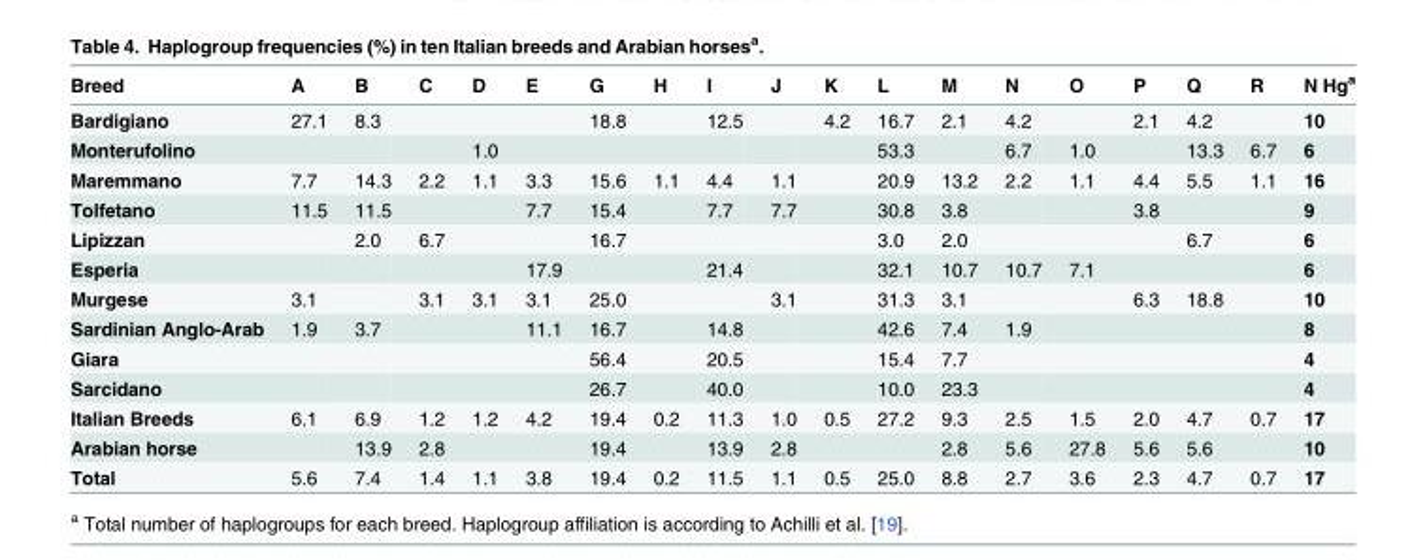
<table><thead><tr><td>Breed</td><td>A</td><td>B</td><td>C</td><td>D</td><td>E</td><td>G</td><td>H</td><td>I</td><td>J</td><td>K</td><td>L</td><td>M</td><td>N</td><td>O</td><td>P</td><td>Q</td><td>R</td><td>N Hg<sup>a</sup></td></tr></thead><tbody><tr><td>Bardigiano</td><td>27.1</td><td>8.3</td><td></td><td></td><td></td><td>18.8</td><td></td><td>12.5</td><td></td><td>4.2</td><td>16.7</td><td>2.1</td><td>4.2</td><td></td><td>2.1</td><td>4.2</td><td></td><td>10</td></tr><tr><td>Monterufolino</td><td></td><td></td><td></td><td>1.0</td><td></td><td></td><td></td><td></td><td></td><td></td><td>53.3</td><td></td><td>6.7</td><td>1.0</td><td></td><td>13.3</td><td>6.7</td><td>6</td></tr><tr><td>Maremmano</td><td>7.7</td><td>14.3</td><td>2.2</td><td>1.1</td><td>3.3</td><td>15.6</td><td>1.1</td><td>4.4</td><td>1.1</td><td></td><td>20.9</td><td>13.2</td><td>2.2</td><td>1.1</td><td>4.4</td><td>5.5</td><td>1.1</td><td>16</td></tr><tr><td>Tolfetano</td><td>11.5</td><td>11.5</td><td></td><td></td><td>7.7</td><td>15.4</td><td></td><td>7.7</td><td>7.7</td><td></td><td>30.8</td><td>3.8</td><td></td><td></td><td>3.8</td><td></td><td></td><td>9</td></tr><tr><td>Lipizzan</td><td></td><td>2.0</td><td>6.7</td><td></td><td></td><td>16.7</td><td></td><td></td><td></td><td></td><td>3.0</td><td>2.0</td><td></td><td></td><td></td><td>6.7</td><td></td><td>6</td></tr><tr><td>Esperia</td><td></td><td></td><td></td><td></td><td>17.9</td><td></td><td></td><td>21.4</td><td></td><td></td><td>32.1</td><td>10.7</td><td>10.7</td><td>7.1</td><td></td><td></td><td></td><td>6</td></tr><tr><td>Murgese</td><td>3.1</td><td></td><td>3.1</td><td>3.1</td><td>3.1</td><td>25.0</td><td></td><td></td><td>3.1</td><td></td><td>31.3</td><td>3.1</td><td></td><td></td><td>6.3</td><td>18.8</td><td></td><td>10</td></tr><tr><td>Sardinian Anglo-Arab</td><td>1.9</td><td>3.7</td><td></td><td></td><td>11.1</td><td>16.7</td><td></td><td>14.8</td><td></td><td></td><td>42.6</td><td>7.4</td><td>1.9</td><td></td><td></td><td></td><td></td><td>8</td></tr><tr><td>Giara</td><td></td><td></td><td></td><td></td><td></td><td>56.4</td><td></td><td>20.5</td><td></td><td></td><td>15.4</td><td>7.7</td><td></td><td></td><td></td><td></td><td></td><td>4</td></tr><tr><td>Sarcidano</td><td></td><td></td><td></td><td></td><td></td><td>26.7</td><td></td><td>40.0</td><td></td><td></td><td>10.0</td><td>23.3</td><td></td><td></td><td></td><td></td><td></td><td>4</td></tr><tr><td>Italian Breeds</td><td>6.1</td><td>6.9</td><td>1.2</td><td>1.2</td><td>4.2</td><td>19.4</td><td>0.2</td><td>11.3</td><td>1.0</td><td>0.5</td><td>27.2</td><td>9.3</td><td>2.5</td><td>1.5</td><td>2.0</td><td>4.7</td><td>0.7</td><td>17</td></tr><tr><td>Arabian horse</td><td></td><td>13.9</td><td>2.8</td><td></td><td></td><td>19.4</td><td></td><td>13.9</td><td>2.8</td><td></td><td></td><td>2.8</td><td>5.6</td><td>27.8</td><td>5.6</td><td>5.6</td><td></td><td>10</td></tr><tr><td>Total</td><td>5.6</td><td>7.4</td><td>1.4</td><td>1.1</td><td>3.8</td><td>19.4</td><td>0.2</td><td>11.5</td><td>1.1</td><td>0.5</td><td>25.0</td><td>8.8</td><td>2.7</td><td>3.6</td><td>2.3</td><td>4.7</td><td>0.7</td><td>17</td></tr></tbody></table>